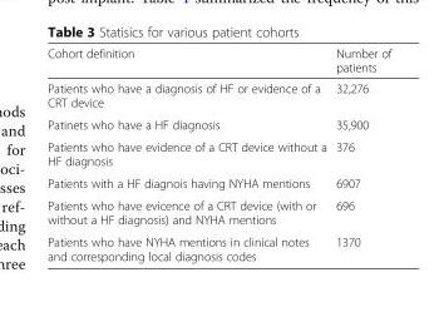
<table><thead><tr><td>Cohort definition</td><td>Number of patients</td></tr></thead><tbody><tr><td>Patients who have a diagnosis of HF or evidence of a CRT device</td><td>32,276</td></tr><tr><td>Patinets who have a HF diagnosis</td><td>35,900</td></tr><tr><td>Patients who have evidence of a CRT device without a HF diagnosis</td><td>376</td></tr><tr><td>Patients with a HF diagnois having NYHA mentions</td><td>6907</td></tr><tr><td>Patients who have evicence of a CRT device (with or without a HF diagnosis) and NYHA mentions</td><td>696</td></tr><tr><td>Patients who have NYHA mentions in clinical notes and corresponding local diagnosis codes</td><td>1370</td></tr></tbody></table>